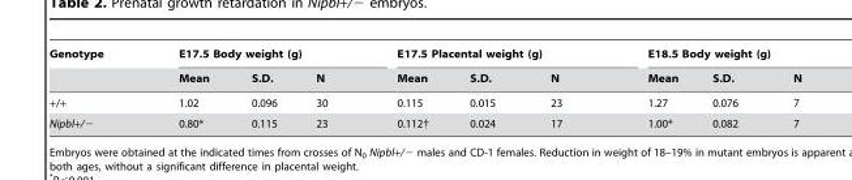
<table><thead><tr><td rowspan="2">Genotype</td><td colspan="3">E17.5 Body weight (g)</td><td colspan="3">E17.5 Placental weight (g)</td><td colspan="3">E18.5 Body weight (g)</td></tr><tr><td>Mean</td><td>S.D.</td><td>N</td><td>Mean</td><td>S.D.</td><td>N</td><td>Mean</td><td>S.D.</td><td>N</td></tr></thead><tbody><tr><td>+/+</td><td>1.02</td><td>0.096</td><td>30</td><td>0.115</td><td>0.015</td><td>23</td><td>1.27</td><td>0.076</td><td>7</td></tr><tr><td>Nipbl+/−</td><td>0.80*</td><td>0.115</td><td>23</td><td>0.112†</td><td>0.024</td><td>17</td><td>1.00*</td><td>0.082</td><td>7</td></tr></tbody></table>